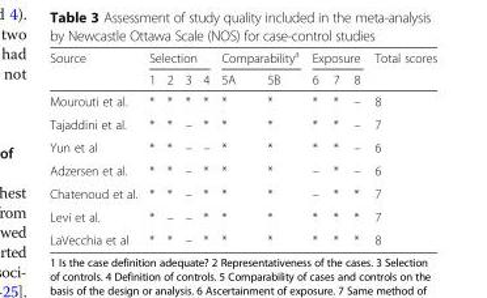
<table><thead><tr><td rowspan="2">Source</td><td colspan="4">Selection</td><td colspan="2">Comparability<sup>a</sup></td><td colspan="3">Exposure</td><td rowspan="2">Total scores</td></tr><tr><td>1</td><td>2</td><td>3</td><td>4</td><td>5A</td><td>5B</td><td>6</td><td>7</td><td>8</td></tr></thead><tbody><tr><td>Mourouti et al.</td><td>*</td><td>*</td><td>*</td><td>*</td><td>*</td><td>*</td><td>*</td><td>*</td><td>–</td><td>8</td></tr><tr><td>Tajaddini et al.</td><td>*</td><td>*</td><td>–</td><td>*</td><td>*</td><td>*</td><td>*</td><td>*</td><td>–</td><td>7</td></tr><tr><td>Yun et al</td><td>*</td><td>*</td><td>–</td><td>–</td><td>*</td><td>*</td><td>*</td><td>*</td><td>–</td><td>6</td></tr><tr><td>Adzersen et al.</td><td>*</td><td>*</td><td>–</td><td>*</td><td>*</td><td>*</td><td>–</td><td>*</td><td>–</td><td>6</td></tr><tr><td>Chatenoud et al.</td><td>*</td><td>*</td><td>–</td><td>*</td><td>*</td><td>*</td><td>–</td><td>*</td><td>*</td><td>7</td></tr><tr><td>Levi et al.</td><td>*</td><td>–</td><td>–</td><td>*</td><td>*</td><td>*</td><td>*</td><td>*</td><td>*</td><td>7</td></tr><tr><td>LaVecchia et al</td><td>*</td><td>*</td><td>–</td><td>*</td><td>*</td><td>*</td><td>*</td><td>*</td><td>*</td><td>8</td></tr></tbody></table>